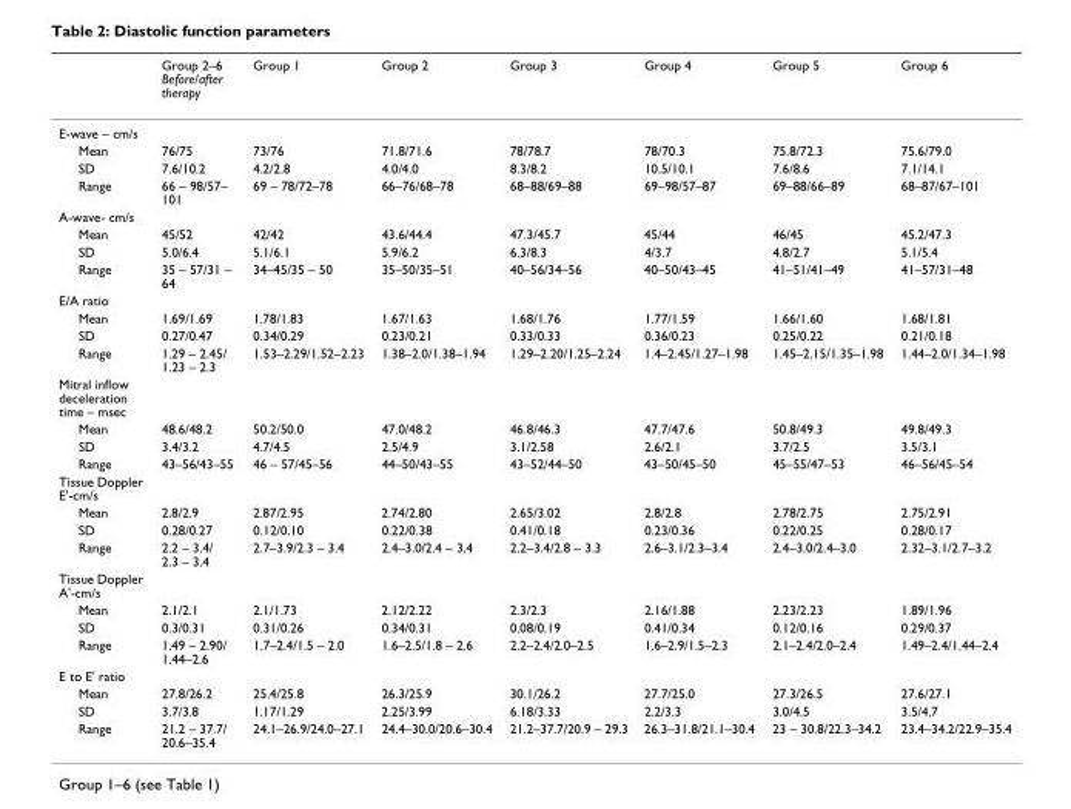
<table><thead><tr><td></td><td>Group 2–6 Before/after therapy</td><td>Group 1</td><td>Group 2</td><td>Group 3</td><td>Group 4</td><td>Group 5</td><td>Group 6</td></tr></thead><tbody><tr><td colspan="8">E-wave – cm/s</td></tr><tr><td>Mean</td><td>76/75</td><td>73/76</td><td>71.8/71.6</td><td>78/78.7</td><td>78/70.3</td><td>75.8/72.3</td><td>75.6/79.0</td></tr><tr><td>SD</td><td>7.6/10.2</td><td>4.2/2.8</td><td>4.0/4.0</td><td>8.3/8.2</td><td>10.5/10.1</td><td>7.6/8.6</td><td>7.1/14.1</td></tr><tr><td>Range</td><td>66 – 98/57– 101</td><td>69 – 78/72–78</td><td>66–76/68–78</td><td>68–88/69–88</td><td>69–98/57–87</td><td>69–88/66–89</td><td>68–87/67–101</td></tr><tr><td colspan="8">A-wave- cm/s</td></tr><tr><td>Mean</td><td>45/52</td><td>42/42</td><td>43.6/44.4</td><td>47.3/45.7</td><td>45/44</td><td>46/45</td><td>45.2/47.3</td></tr><tr><td>SD</td><td>5.0/6.4</td><td>5.1/6.1</td><td>5.9/6.2</td><td>6.3/8.3</td><td>4/3.7</td><td>4.8/2.7</td><td>5.1/5.4</td></tr><tr><td>Range</td><td>35 – 57/31 – 64</td><td>34–45/35 – 50</td><td>35–50/35–51</td><td>40–56/34–56</td><td>40–50/43–45</td><td>41–51/41–49</td><td>41–57/31–48</td></tr><tr><td colspan="8">E/A ratio</td></tr><tr><td>Mean</td><td>1.69/1.69</td><td>1.78/1.83</td><td>1.67/1.63</td><td>1.68/1.76</td><td>1.77/1.59</td><td>1.66/1.60</td><td>1.68/1.81</td></tr><tr><td>SD</td><td>0.27/0.47</td><td>0.34/0.29</td><td>0.23/0.21</td><td>0.33/0.33</td><td>0.36/0.23</td><td>0.25/0.22</td><td>0.21/0.18</td></tr><tr><td>Range</td><td>1.29 – 2.45/ 1.23 – 2.3</td><td>1.53–2.29/1.52–2.23</td><td>1.38–2.0/1.38–1.94</td><td>1.29–2.20/1.25–2.24</td><td>1.4–2.45/1.27–1.98</td><td>1.45–2.15/1.35–1.98</td><td>1.44–2.0/1.34–1.98</td></tr><tr><td colspan="8">Mitral inflow deceleration time – msec</td></tr><tr><td>Mean</td><td>48.6/48.2</td><td>50.2/50.0</td><td>47.0/48.2</td><td>46.8/46.3</td><td>47.7/47.6</td><td>50.8/49.3</td><td>49.8/49.3</td></tr><tr><td>SD</td><td>3.4/3.2</td><td>4.7/4.5</td><td>2.5/4.9</td><td>3.1/2.58</td><td>2.6/2.1</td><td>3.7/2.5</td><td>3.5/3.1</td></tr><tr><td>Range</td><td>43–56/43–55</td><td>46 – 57/45–56</td><td>44–50/43–55</td><td>43–52/44–50</td><td>43–50/45–50</td><td>45–55/47–53</td><td>46–56/45–54</td></tr><tr><td colspan="8">Tissue Doppler E&#x27;-cm/s</td></tr><tr><td>Mean</td><td>2.8/2.9</td><td>2.87/2.95</td><td>2.74/2.80</td><td>2.65/3.02</td><td>2.8/2.8</td><td>2.78/2.75</td><td>2.75/2.91</td></tr><tr><td>SD</td><td>0.28/0.27</td><td>0.12/0.10</td><td>0.22/0.38</td><td>0.41/0.18</td><td>0.23/0.36</td><td>0.22/0.25</td><td>0.28/0.17</td></tr><tr><td>Range</td><td>2.2 – 3.4/ 2.3 – 3.4</td><td>2.7–3.9/2.3 – 3.4</td><td>2.4–3.0/2.4 – 3.4</td><td>2.2–3.4/2.8 – 3.3</td><td>2.6–3.1/2.3–3.4</td><td>2.4–3.0/2.4–3.0</td><td>2.32–3.1/2.7–3.2</td></tr><tr><td colspan="8">Tissue Doppler A&#x27;-cm/s</td></tr><tr><td>Mean</td><td>2.1/2.1</td><td>2.1/1.73</td><td>2.12/2.22</td><td>2.3/2.3</td><td>2.16/1.88</td><td>2.23/2.23</td><td>1.89/1.96</td></tr><tr><td>SD</td><td>0.3/0.31</td><td>0.31/0.26</td><td>0.34/0.31</td><td>0.08/0.19</td><td>0.41/0.34</td><td>0.12/0.16</td><td>0.29/0.37</td></tr><tr><td>Range</td><td>1.49 – 2.90/ 1.44–2.6</td><td>1.7–2.4/1.5 – 2.0</td><td>1.6–2.5/1.8 – 2.6</td><td>2.2–2.4/2.0–2.5</td><td>1.6–2.9/1.5–2.3</td><td>2.1–2.4/2.0–2.4</td><td>1.49–2.4/1.44–2.4</td></tr><tr><td colspan="8">E to E&#x27; ratio</td></tr><tr><td>Mean</td><td>27.8/26.2</td><td>25.4/25.8</td><td>26.3/25.9</td><td>30.1/26.2</td><td>27.7/25.0</td><td>27.3/26.5</td><td>27.6/27.1</td></tr><tr><td>SD</td><td>3.7/3.8</td><td>1.17/1.29</td><td>2.25/3.99</td><td>6.18/3.33</td><td>2.2/3.3</td><td>3.0/4.5</td><td>3.5/4.7</td></tr><tr><td>Range</td><td>21.2 – 37.7/ 20.6–35.4</td><td>24.1–26.9/24.0–27.1</td><td>24.4–30.0/20.6–30.4</td><td>21.2–37.7/20.9 – 29.3</td><td>26.3–31.8/21.1–30.4</td><td>23 – 30.8/22.3–34.2</td><td>23.4–34.2/22.9–35.4</td></tr></tbody></table>